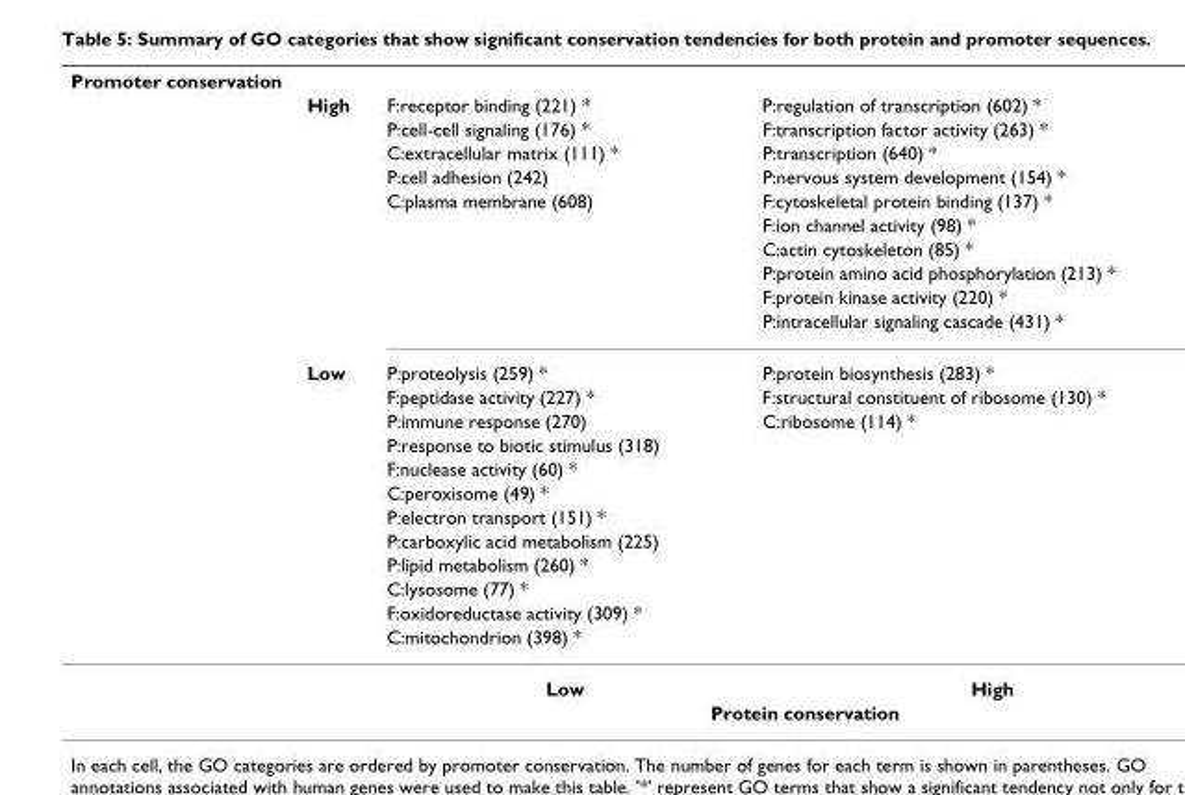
<table><thead><tr><td rowspan="23">Promoter conservation</td><td rowspan="23">High Low</td><td rowspan="23">F:receptor binding (221) * P:cell-cell signaling (176) * C:extracellular matrix (111) * P:cell adhesion (242) C:plasma membrane (608) P:proteolysis (259) * F:peptidase activity (227) * P:immune response (270) P:response to biotic stimulus (318) F:nuclease activity (60) * C:peroxisome (49) * P:electron transport (151) * P:carboxylic acid metabolism (225) P:lipid metabolism (260) * C:lysosome (77) * F:oxidoreductase activity (309) * C:mitochondrion (398) *</td><td rowspan="23">P:regulation of transcription (602) * F:transcription factor activity (263) * P:transcription (640) * P:nervous system development (154) * F:cytoskeletal protein binding (137) * F:ion channel activity (98) * C:actin cytoskeleton (85) * P:protein amino acid phosphorylation (213) * F:protein kinase activity (220) * P:intracellular signaling cascade (431) * P:protein biosynthesis (283) * F:structural constituent of ribosome (130) * C:ribosome (114) *</td></tr><tr></tr><tr></tr><tr></tr><tr></tr><tr></tr><tr></tr><tr></tr><tr></tr><tr></tr><tr></tr><tr></tr><tr></tr><tr></tr><tr></tr><tr></tr><tr></tr><tr></tr><tr></tr><tr></tr><tr></tr><tr></tr><tr></tr></thead><tbody><tr><td></td><td></td><td>Low</td><td>High</td></tr><tr><td></td><td></td><td colspan="2">Protein conservation</td></tr></tbody></table>